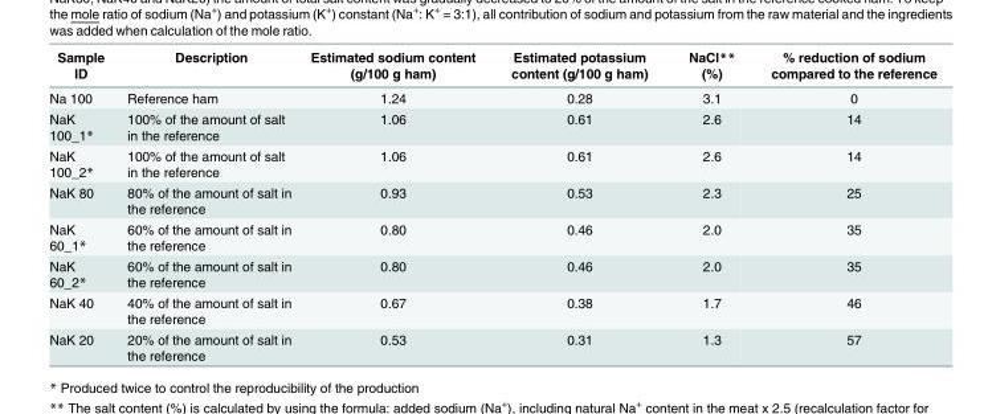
<table><thead><tr><td>Sample ID</td><td>Description</td><td>Estimated sodium content (g/100 g ham)</td><td>Estimated potassium content (g/100 g ham)</td><td>NaCl** (%)</td><td>% reduction of sodium compared to the reference</td></tr></thead><tbody><tr><td>Na 100</td><td>Reference ham</td><td>1.24</td><td>0.28</td><td>3.1</td><td>0</td></tr><tr><td>NaK 100_1*</td><td>100% of the amount of salt in the reference</td><td>1.06</td><td>0.61</td><td>2.6</td><td>14</td></tr><tr><td>NaK 100_2*</td><td>100% of the amount of salt in the reference</td><td>1.06</td><td>0.61</td><td>2.6</td><td>14</td></tr><tr><td>NaK 80</td><td>80% of the amount of salt in the reference</td><td>0.93</td><td>0.53</td><td>2.3</td><td>25</td></tr><tr><td>NaK 60_1*</td><td>60% of the amount of salt in the reference</td><td>0.80</td><td>0.46</td><td>2.0</td><td>35</td></tr><tr><td>NaK 60_2*</td><td>60% of the amount of salt in the reference</td><td>0.80</td><td>0.46</td><td>2.0</td><td>35</td></tr><tr><td>NaK 40</td><td>40% of the amount of salt in the reference</td><td>0.67</td><td>0.38</td><td>1.7</td><td>46</td></tr><tr><td>NaK 20</td><td>20% of the amount of salt in the reference</td><td>0.53</td><td>0.31</td><td>1.3</td><td>57</td></tr></tbody></table>